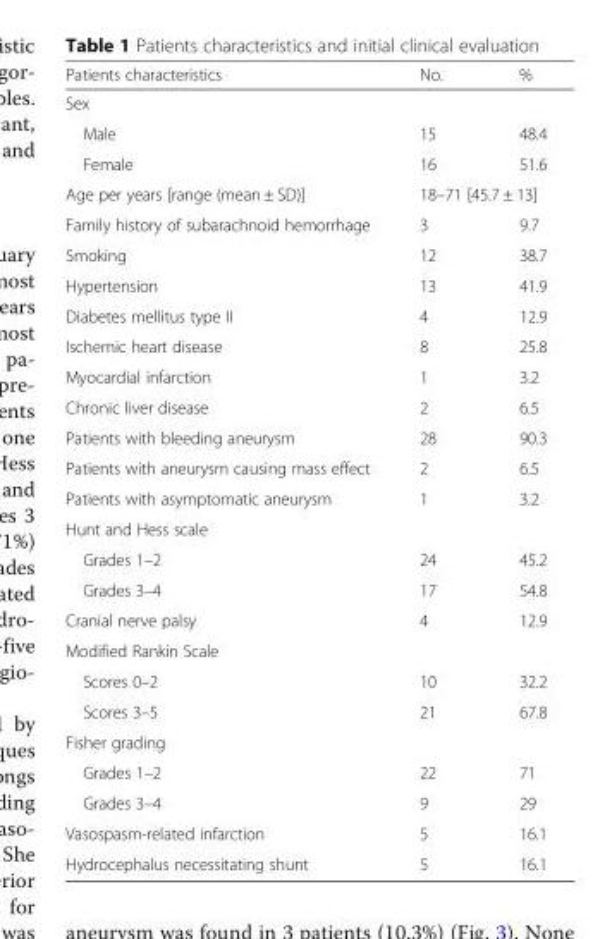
<table><thead><tr><td>Patients characteristics</td><td>No.</td><td>%</td></tr></thead><tbody><tr><td colspan="3">Sex</td></tr><tr><td>Male</td><td>15</td><td>48.4</td></tr><tr><td>Female</td><td>16</td><td>51.6</td></tr><tr><td>Age per years [range (mean ± SD)]</td><td colspan="2">18–71 [45.7 ± 13]</td></tr><tr><td>Family history of subarachnoid hemorrhage</td><td>3</td><td>9.7</td></tr><tr><td>Smoking</td><td>12</td><td>38.7</td></tr><tr><td>Hypertension</td><td>13</td><td>41.9</td></tr><tr><td>Diabetes mellitus type II</td><td>4</td><td>12.9</td></tr><tr><td>Ischemic heart disease</td><td>8</td><td>25.8</td></tr><tr><td>Myocardial infarction</td><td>1</td><td>3.2</td></tr><tr><td>Chronic liver disease</td><td>2</td><td>6.5</td></tr><tr><td>Patients with bleeding aneurysm</td><td>28</td><td>90.3</td></tr><tr><td>Patients with aneurysm causing mass effect</td><td>2</td><td>6.5</td></tr><tr><td>Patients with asymptomatic aneurysm</td><td>1</td><td>3.2</td></tr><tr><td colspan="3">Hunt and Hess scale</td></tr><tr><td>Grades 1–2</td><td>24</td><td>45.2</td></tr><tr><td>Grades 3–4</td><td>17</td><td>54.8</td></tr><tr><td>Cranial nerve palsy</td><td>4</td><td>12.9</td></tr><tr><td colspan="3">Modified Rankin Scale</td></tr><tr><td>Scores 0–2</td><td>10</td><td>32.2</td></tr><tr><td>Scores 3–5</td><td>21</td><td>67.8</td></tr><tr><td colspan="3">Fisher grading</td></tr><tr><td>Grades 1–2</td><td>22</td><td>71</td></tr><tr><td>Grades 3–4</td><td>9</td><td>29</td></tr><tr><td>Vasospasm-related infarction</td><td>5</td><td>16.1</td></tr><tr><td>Hydrocephalus necessitating shunt</td><td>5</td><td>16.1</td></tr></tbody></table>